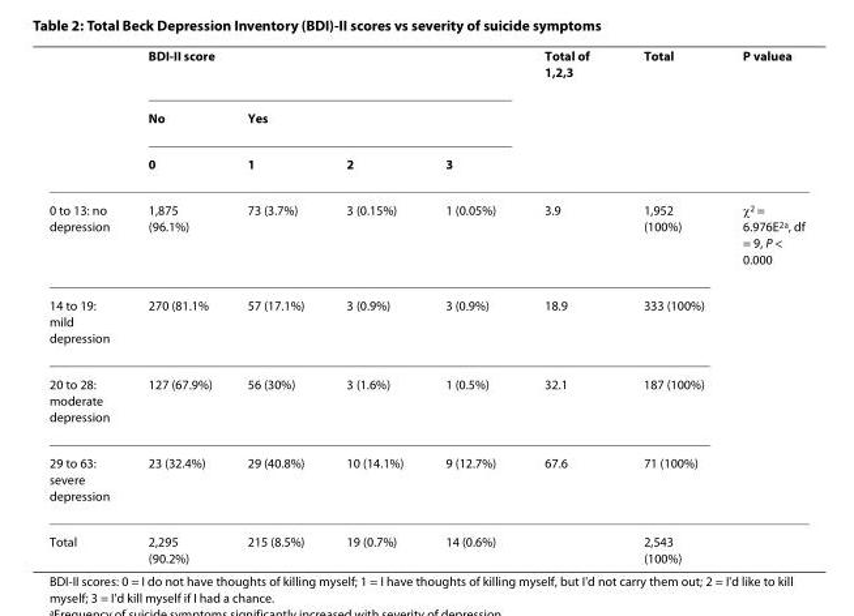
<table><thead><tr><td rowspan="3"></td><td colspan="4">BDI-II score</td><td rowspan="3">Total of 1,2,3</td><td rowspan="3">Total</td><td rowspan="3">P value<sup>a</sup></td></tr><tr><td rowspan="2">No 0</td><td rowspan="2">Yes 1</td><td rowspan="2">2</td><td rowspan="2">3</td></tr><tr></tr></thead><tbody><tr><td>0 to 13: no depression</td><td>1,875 (96.1%)</td><td>73 (3.7%)</td><td>3 (0.15%)</td><td>1 (0.05%)</td><td>3.9</td><td>1,952 (100%)</td><td>χ<sup>2</sup> = 6.976E<sup>2a</sup>, df = 9, P &lt; 0.000</td></tr><tr><td>14 to 19: mild depression</td><td>270 (81.1%</td><td>57 (17.1%)</td><td>3 (0.9%)</td><td>3 (0.9%)</td><td>18.9</td><td>333 (100%)</td><td></td></tr><tr><td>20 to 28: moderate depression</td><td>127 (67.9%)</td><td>56 (30%)</td><td>3 (1.6%)</td><td>1 (0.5%)</td><td>32.1</td><td>187 (100%)</td><td></td></tr><tr><td>29 to 63: severe depression</td><td>23 (32.4%)</td><td>29 (40.8%)</td><td>10 (14.1%)</td><td>9 (12.7%)</td><td>67.6</td><td>71 (100%)</td><td></td></tr><tr><td>Total</td><td>2,295 (90.2%)</td><td>215 (8.5%)</td><td>19 (0.7%)</td><td>14 (0.6%)</td><td></td><td>2,543 (100%)</td><td></td></tr></tbody></table>